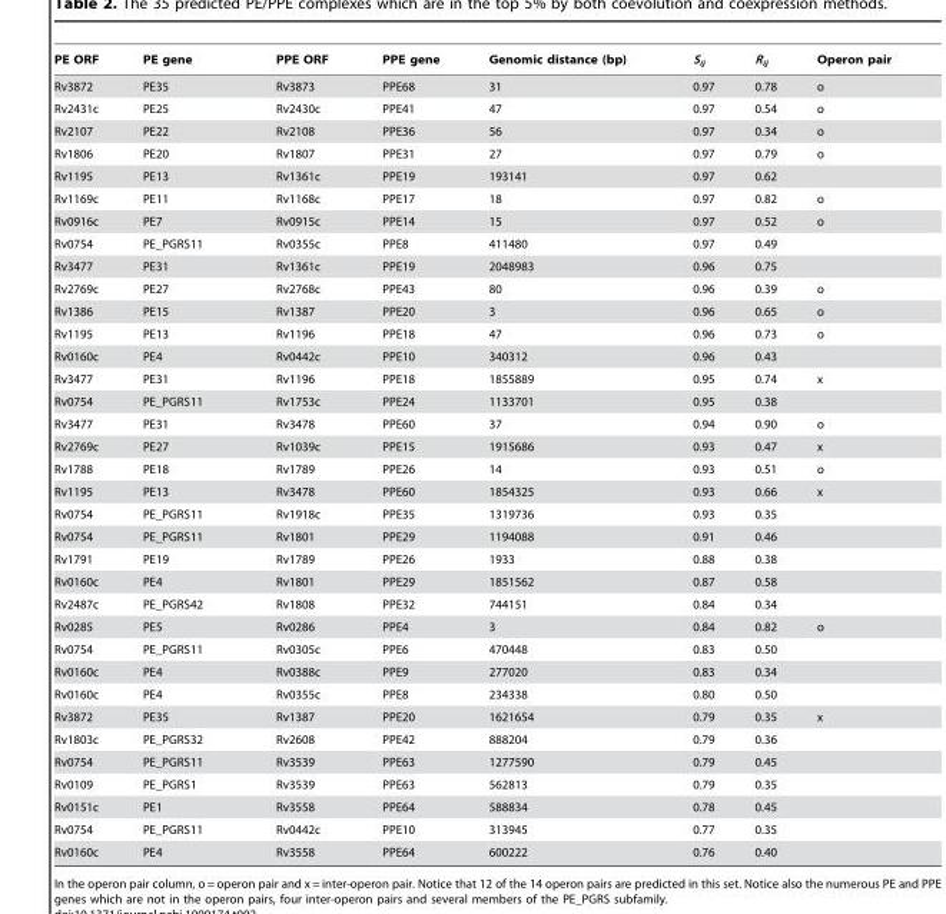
<table><thead><tr><td>PE ORF</td><td>PE gene</td><td>PPE ORF</td><td>PPE gene</td><td>Genomic distance (bp)</td><td>S<sub>ij</sub></td><td>R<sub>ij</sub></td><td>Operon pair</td></tr></thead><tbody><tr><td>Rv3872</td><td>PE35</td><td>Rv3873</td><td>PPE68</td><td>31</td><td>0.97</td><td>0.78</td><td>o</td></tr><tr><td>Rv2431c</td><td>PE25</td><td>Rv2430c</td><td>PPE41</td><td>47</td><td>0.97</td><td>0.54</td><td>o</td></tr><tr><td>Rv2107</td><td>PE22</td><td>Rv2108</td><td>PPE36</td><td>56</td><td>0.97</td><td>0.34</td><td>o</td></tr><tr><td>Rv1806</td><td>PE20</td><td>Rv1807</td><td>PPE31</td><td>27</td><td>0.97</td><td>0.79</td><td>o</td></tr><tr><td>Rv1195</td><td>PE13</td><td>Rv1361c</td><td>PPE19</td><td>193141</td><td>0.97</td><td>0.62</td><td></td></tr><tr><td>Rv1169c</td><td>PE11</td><td>Rv1168c</td><td>PPE17</td><td>18</td><td>0.97</td><td>0.82</td><td>o</td></tr><tr><td>Rv0916c</td><td>PE7</td><td>Rv0915c</td><td>PPE14</td><td>15</td><td>0.97</td><td>0.52</td><td>o</td></tr><tr><td>Rv0754</td><td>PE_PGRS11</td><td>Rv0355c</td><td>PPE8</td><td>411480</td><td>0.97</td><td>0.49</td><td></td></tr><tr><td>Rv3477</td><td>PE31</td><td>Rv1361c</td><td>PPE19</td><td>2048983</td><td>0.96</td><td>0.75</td><td></td></tr><tr><td>Rv2769c</td><td>PE27</td><td>Rv2768c</td><td>PPE43</td><td>80</td><td>0.96</td><td>0.39</td><td>o</td></tr><tr><td>Rv1386</td><td>PE15</td><td>Rv1387</td><td>PPE20</td><td>3</td><td>0.96</td><td>0.65</td><td>o</td></tr><tr><td>Rv1195</td><td>PE13</td><td>Rv1196</td><td>PPE18</td><td>47</td><td>0.96</td><td>0.73</td><td>o</td></tr><tr><td>Rv0160c</td><td>PE4</td><td>Rv0442c</td><td>PPE10</td><td>340312</td><td>0.96</td><td>0.43</td><td></td></tr><tr><td>Rv3477</td><td>PE31</td><td>Rv1196</td><td>PPE18</td><td>1855889</td><td>0.95</td><td>0.74</td><td>x</td></tr><tr><td>Rv0754</td><td>PE_PGRS11</td><td>Rv1753c</td><td>PPE24</td><td>1133701</td><td>0.95</td><td>0.38</td><td></td></tr><tr><td>Rv3477</td><td>PE31</td><td>Rv3478</td><td>PPE60</td><td>37</td><td>0.94</td><td>0.90</td><td>o</td></tr><tr><td>Rv2769c</td><td>PE27</td><td>Rv1039c</td><td>PPE15</td><td>1915686</td><td>0.93</td><td>0.47</td><td>x</td></tr><tr><td>Rv1788</td><td>PE18</td><td>Rv1789</td><td>PPE26</td><td>14</td><td>0.93</td><td>0.51</td><td>o</td></tr><tr><td>Rv1195</td><td>PE13</td><td>Rv3478</td><td>PPE60</td><td>1854325</td><td>0.93</td><td>0.66</td><td>x</td></tr><tr><td>Rv0754</td><td>PE_PGRS11</td><td>Rv1918c</td><td>PPE35</td><td>1319736</td><td>0.93</td><td>0.35</td><td></td></tr><tr><td>Rv0754</td><td>PE_PGRS11</td><td>Rv1801</td><td>PPE29</td><td>1194088</td><td>0.91</td><td>0.46</td><td></td></tr><tr><td>Rv1791</td><td>PE19</td><td>Rv1789</td><td>PPE26</td><td>1933</td><td>0.88</td><td>0.38</td><td></td></tr><tr><td>Rv0160c</td><td>PE4</td><td>Rv1801</td><td>PPE29</td><td>1851562</td><td>0.87</td><td>0.58</td><td></td></tr><tr><td>Rv2487c</td><td>PE_PGRS42</td><td>Rv1808</td><td>PPE32</td><td>744151</td><td>0.84</td><td>0.34</td><td></td></tr><tr><td>Rv0285</td><td>PE5</td><td>Rv0286</td><td>PPE4</td><td>3</td><td>0.84</td><td>0.82</td><td>o</td></tr><tr><td>Rv0754</td><td>PE_PGRS11</td><td>Rv0305c</td><td>PPE6</td><td>470448</td><td>0.83</td><td>0.50</td><td></td></tr><tr><td>Rv0160c</td><td>PE4</td><td>Rv0388c</td><td>PPE9</td><td>277020</td><td>0.83</td><td>0.34</td><td></td></tr><tr><td>Rv0160c</td><td>PE4</td><td>Rv0355c</td><td>PPE8</td><td>234338</td><td>0.80</td><td>0.50</td><td></td></tr><tr><td>Rv3872</td><td>PE35</td><td>Rv1387</td><td>PPE20</td><td>1621654</td><td>0.79</td><td>0.35</td><td>x</td></tr><tr><td>Rv1803c</td><td>PE_PGRS32</td><td>Rv2608</td><td>PPE42</td><td>888204</td><td>0.79</td><td>0.36</td><td></td></tr><tr><td>Rv0754</td><td>PE_PGRS11</td><td>Rv3539</td><td>PPE63</td><td>1277590</td><td>0.79</td><td>0.45</td><td></td></tr><tr><td>Rv0109</td><td>PE_PGRS1</td><td>Rv3539</td><td>PPE63</td><td>562813</td><td>0.79</td><td>0.35</td><td></td></tr><tr><td>Rv0151c</td><td>PE1</td><td>Rv3558</td><td>PPE64</td><td>588834</td><td>0.78</td><td>0.45</td><td></td></tr><tr><td>Rv0754</td><td>PE_PGRS11</td><td>Rv0442c</td><td>PPE10</td><td>313945</td><td>0.77</td><td>0.35</td><td></td></tr><tr><td>Rv0160c</td><td>PE4</td><td>Rv3558</td><td>PPE64</td><td>600222</td><td>0.76</td><td>0.40</td><td></td></tr></tbody></table>